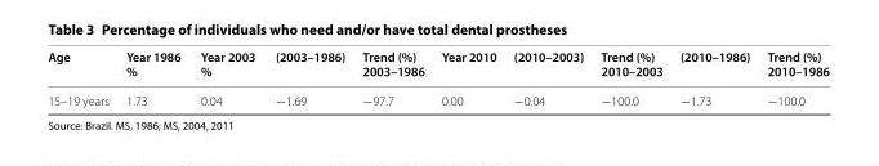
<table><thead><tr><td>Age</td><td>Year 1986 %</td><td>Year 2003 %</td><td>(2003–1986)</td><td>Trend (%) 2003–1986</td><td>Year 2010</td><td>(2010–2003)</td><td>Trend (%) 2010–2003</td><td>(2010–1986)</td><td>Trend (%) 2010–1986</td></tr></thead><tbody><tr><td>15–19 years</td><td>1.73</td><td>0.04</td><td>−1.69</td><td>−97.7</td><td>0.00</td><td>−0.04</td><td>−100.0</td><td>−1.73</td><td>−100.0</td></tr></tbody></table>